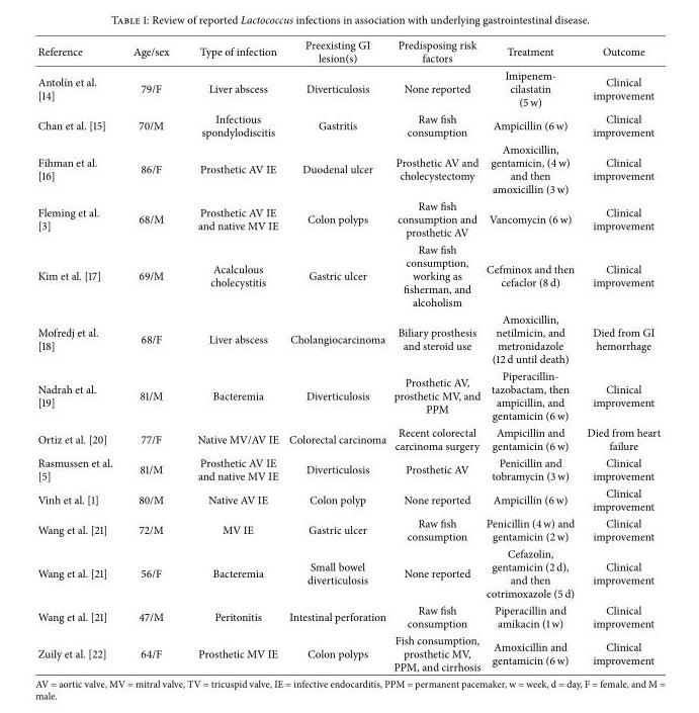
<table><thead><tr><td>Reference</td><td>Age/sex</td><td>Type of infection</td><td>Preexisting GI lesion(s)</td><td>Predisposing risk factors</td><td>Treatment</td><td>Outcome</td></tr></thead><tbody><tr><td>Antol´ın et al. [14]</td><td>79/F</td><td>Liver abscess</td><td>Diverticulosis</td><td>None reported</td><td>Imipenem- cilastatin (5 w)</td><td>Clinical improvement</td></tr><tr><td>Chan et al. [15]</td><td>70/M</td><td>Infectious spondylodiscitis</td><td>Gastritis</td><td>Raw fish consumption</td><td>Ampicillin (6 w)</td><td>Clinical improvement</td></tr><tr><td>Fihman et al. [16]</td><td>86/F</td><td>Prosthetic AV IE</td><td>Duodenal ulcer</td><td>Prosthetic AV and cholecystectomy</td><td>Amoxicillin, gentamicin, (4 w) and then amoxicillin (3 w)</td><td>Clinical improvement</td></tr><tr><td>Fleming et al. [3]</td><td>68/M</td><td>Prosthetic AV IE and native MV IE</td><td>Colon polyps</td><td>Raw fish consumption and prosthetic AV</td><td>Vancomycin (6 w)</td><td>Clinical improvement</td></tr><tr><td>Kim et al. [17]</td><td>69/M</td><td>Acalculous cholecystitis</td><td>Gastric ulcer</td><td>Raw fish consumption, working as fisherman, and alcoholism</td><td>Cefminox and then cefaclor (8 d)</td><td>Clinical improvement</td></tr><tr><td>Mofredj et al. [18]</td><td>68/F</td><td>Liver abscess</td><td>Cholangiocarcinoma</td><td>Biliary prosthesis and steroid use</td><td>Amoxicillin, netilmicin, and metronidazole (12 d until death)</td><td>Died from GI hemorrhage</td></tr><tr><td>Nadrah et al. [19]</td><td>81/M</td><td>Bacteremia</td><td>Diverticulosis</td><td>Prosthetic AV, prosthetic MV, and PPM</td><td>Piperacillin- tazobactam, then ampicillin, and gentamicin (6 w)</td><td>Clinical improvement</td></tr><tr><td>Ortiz et al. [20]</td><td>77/F</td><td>Native MV/AV IE</td><td>Colorectal carcinoma</td><td>Recent colorectal carcinoma surgery</td><td>Ampicillin and gentamicin (6 w)</td><td>Died from heart failure</td></tr><tr><td>Rasmussen et al. [5]</td><td>81/M</td><td>Prosthetic AV IE and native MV IE</td><td>Diverticulosis</td><td>Prosthetic AV</td><td>Penicillin and tobramycin (3 w)</td><td>Clinical improvement</td></tr><tr><td>Vinh et al. [1]</td><td>80/M</td><td>Native AV IE</td><td>Colon polyp</td><td>None reported</td><td>Ampicillin (6 w)</td><td>Clinical improvement</td></tr><tr><td>Wang et al. [21]</td><td>72/M</td><td>MV IE</td><td>Gastric ulcer</td><td>Raw fish consumption</td><td>Penicillin (4 w) and gentamicin (2 w)</td><td>Clinical improvement</td></tr><tr><td>Wang et al. [21]</td><td>56/F</td><td>Bacteremia</td><td>Small bowel diverticulosis</td><td>None reported</td><td>Cefazolin, gentamicin (2 d), and then cotrimoxazole (5 d)</td><td>Clinical improvement</td></tr><tr><td>Wang et al. [21]</td><td>47/M</td><td>Peritonitis</td><td>Intestinal perforation</td><td>Raw fish consumption</td><td>Piperacillin and amikacin (1 w)</td><td>Clinical improvement</td></tr><tr><td>Zuily et al. [22]</td><td>64/F</td><td>Prosthetic MV IE</td><td>Colon polyps</td><td>Fish consumption, prosthetic MV, PPM, and cirrhosis</td><td>Amoxicillin and gentamicin (6 w)</td><td>Clinical improvement</td></tr></tbody></table>